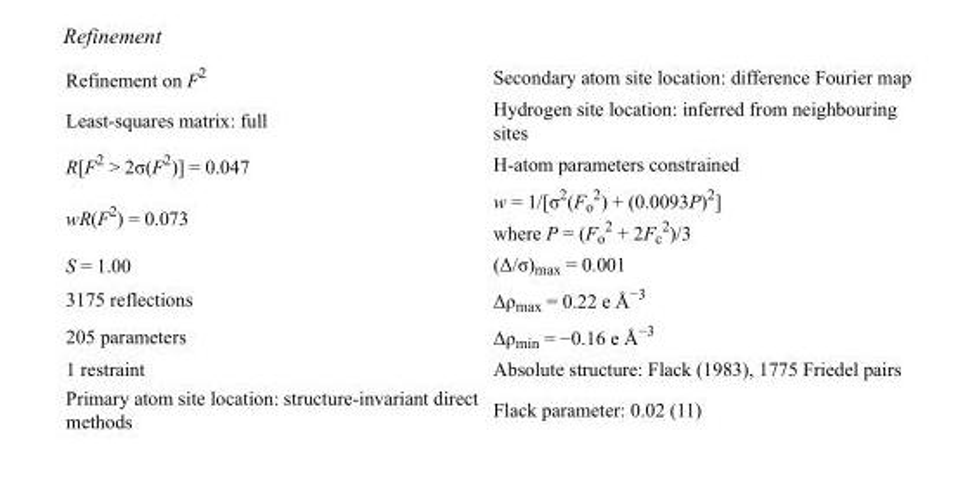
<table><tbody><tr><td>Refinement on F<sup>2</sup></td><td>Secondary atom site location: difference Fourier map</td></tr><tr><td>Least-squares matrix: full</td><td>Hydrogen site location: inferred from neighbouring sites</td></tr><tr><td>R[F<sup>2</sup> &gt; 2σ(F<sup>2</sup>)] = 0.047</td><td>H-atom parameters constrained</td></tr><tr><td>wR(F<sup>2</sup>) = 0.073</td><td>w = 1/[σ<sup>2</sup>(F<sub>o</sub> <sup>2</sup>) + (0.0093P)<sup>2</sup>] where P = (F<sub>o</sub> <sup>2</sup> + 2F<sub>c</sub> <sup>2</sup>)/3</td></tr><tr><td>S = 1.00</td><td>(Δ/σ)<sub>max</sub> = 0.001</td></tr><tr><td>3175 reflections</td><td>Δρ<sub>max</sub> = 0.22 e Å<sup>−3</sup></td></tr><tr><td>205 parameters</td><td>Δρ<sub>min</sub> = −0.16 e Å<sup>−3</sup></td></tr><tr><td>1 restraint</td><td>Absolute structure: Flack (1983), 1775 Friedel pairs</td></tr><tr><td>Primary atom site location: structure-invariant direct methods</td><td>Flack parameter: 0.02 (11)</td></tr></tbody></table>